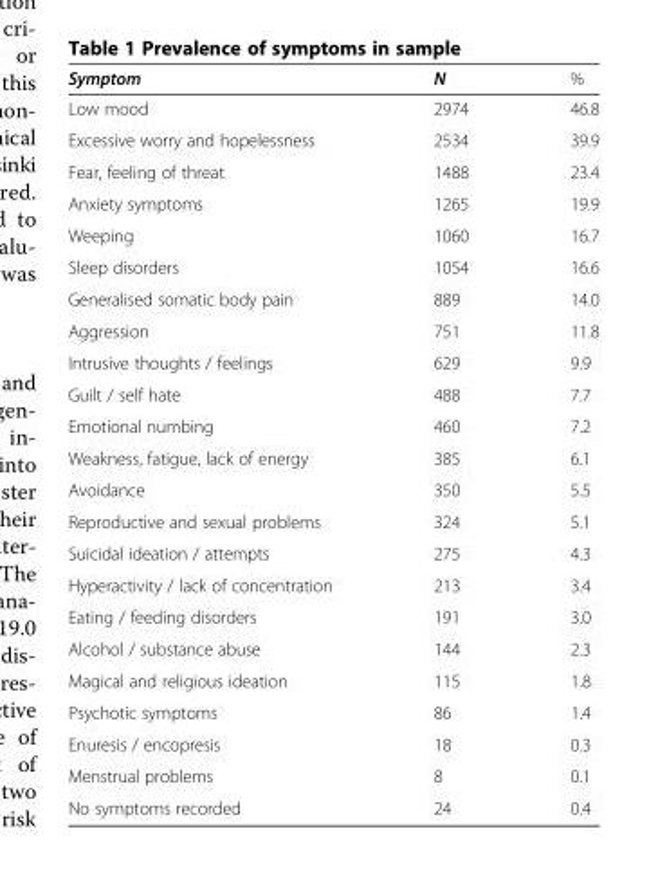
<table><thead><tr><td>Symptom</td><td>N</td><td>%</td></tr></thead><tbody><tr><td>Low mood</td><td>2974</td><td>46.8</td></tr><tr><td>Excessive worry and hopelessness</td><td>2534</td><td>39.9</td></tr><tr><td>Fear, feeling of threat</td><td>1488</td><td>23.4</td></tr><tr><td>Anxiety symptoms</td><td>1265</td><td>19.9</td></tr><tr><td>Weeping</td><td>1060</td><td>16.7</td></tr><tr><td>Sleep disorders</td><td>1054</td><td>16.6</td></tr><tr><td>Generalised somatic body pain</td><td>889</td><td>14.0</td></tr><tr><td>Aggression</td><td>751</td><td>11.8</td></tr><tr><td>Intrusive thoughts / feelings</td><td>629</td><td>9.9</td></tr><tr><td>Guilt / self hate</td><td>488</td><td>7.7</td></tr><tr><td>Emotional numbing</td><td>460</td><td>7.2</td></tr><tr><td>Weakness, fatigue, lack of energy</td><td>385</td><td>6.1</td></tr><tr><td>Avoidance</td><td>350</td><td>5.5</td></tr><tr><td>Reproductive and sexual problems</td><td>324</td><td>5.1</td></tr><tr><td>Suicidal ideation / attempts</td><td>275</td><td>4.3</td></tr><tr><td>Hyperactivity / lack of concentration</td><td>213</td><td>3.4</td></tr><tr><td>Eating / feeding disorders</td><td>191</td><td>3.0</td></tr><tr><td>Alcohol / substance abuse</td><td>144</td><td>2.3</td></tr><tr><td>Magical and religious ideation</td><td>115</td><td>1.8</td></tr><tr><td>Psychotic symptoms</td><td>86</td><td>1.4</td></tr><tr><td>Enuresis / encopresis</td><td>18</td><td>0.3</td></tr><tr><td>Menstrual problems</td><td>8</td><td>0.1</td></tr><tr><td>No symptoms recorded</td><td>24</td><td>0.4</td></tr></tbody></table>